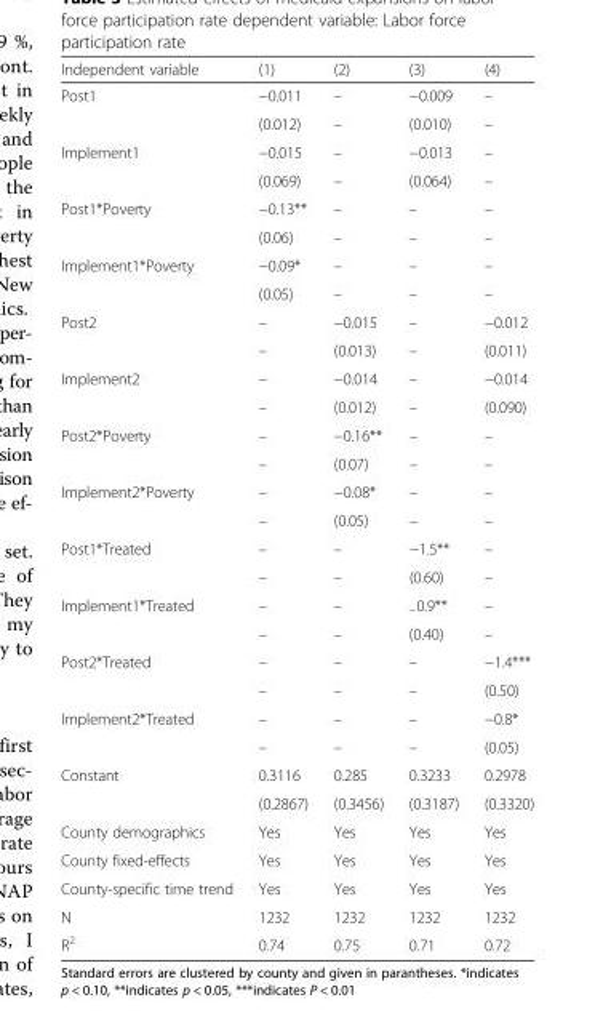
<table><thead><tr><td>Independent variable</td><td>(1)</td><td>(2)</td><td>(3)</td><td>(4)</td></tr></thead><tbody><tr><td rowspan="2">Post1</td><td>−0.011</td><td>–</td><td>−0.009</td><td>–</td></tr><tr><td>(0.012)</td><td>–</td><td>(0.010)</td><td>–</td></tr><tr><td rowspan="2">Implement1</td><td>−0.015</td><td>–</td><td>−0.013</td><td>–</td></tr><tr><td>(0.069)</td><td>–</td><td>(0.064)</td><td>–</td></tr><tr><td rowspan="2">Post1*Poverty</td><td>−0.13**</td><td>–</td><td>–</td><td>–</td></tr><tr><td>(0.06)</td><td>–</td><td>–</td><td>–</td></tr><tr><td rowspan="2">Implement1*Poverty</td><td>−0.09*</td><td>–</td><td>–</td><td>–</td></tr><tr><td>(0.05)</td><td>–</td><td>–</td><td>–</td></tr><tr><td rowspan="2">Post2</td><td>–</td><td>−0.015</td><td>–</td><td>−0.012</td></tr><tr><td>–</td><td>(0.013)</td><td>–</td><td>(0.011)</td></tr><tr><td rowspan="2">Implement2</td><td>–</td><td>−0.014</td><td>–</td><td>−0.014</td></tr><tr><td>–</td><td>(0.012)</td><td>–</td><td>(0.090)</td></tr><tr><td rowspan="2">Post2*Poverty</td><td>–</td><td>−0.16**</td><td>–</td><td>–</td></tr><tr><td>–</td><td>(0.07)</td><td>–</td><td>–</td></tr><tr><td rowspan="2">Implement2*Poverty</td><td>–</td><td>−0.08*</td><td>–</td><td>–</td></tr><tr><td>–</td><td>(0.05)</td><td>–</td><td>–</td></tr><tr><td rowspan="2">Post1*Treated</td><td>–</td><td>–</td><td>−1.5**</td><td>–</td></tr><tr><td>–</td><td>–</td><td>(0.60)</td><td>–</td></tr><tr><td rowspan="2">Implement1*Treated</td><td>–</td><td>–</td><td><sub>−</sub>0.9**</td><td>–</td></tr><tr><td>–</td><td>–</td><td>(0.40)</td><td>–</td></tr><tr><td rowspan="2">Post2*Treated</td><td>–</td><td>–</td><td>–</td><td>−1.4***</td></tr><tr><td>–</td><td>–</td><td>–</td><td>(0.50)</td></tr><tr><td rowspan="2">Implement2*Treated</td><td>–</td><td>–</td><td>–</td><td>−0.8*</td></tr><tr><td>–</td><td>–</td><td>–</td><td>(0.05)</td></tr><tr><td rowspan="2">Constant</td><td>0.3116</td><td>0.285</td><td>0.3233</td><td>0.2978</td></tr><tr><td>(0.2867)</td><td>(0.3456)</td><td>(0.3187)</td><td>(0.3320)</td></tr><tr><td>County demographics</td><td>Yes</td><td>Yes</td><td>Yes</td><td>Yes</td></tr><tr><td>County fixed-effects</td><td>Yes</td><td>Yes</td><td>Yes</td><td>Yes</td></tr><tr><td>County-specific time trend</td><td>Yes</td><td>Yes</td><td>Yes</td><td>Yes</td></tr><tr><td>N</td><td>1232</td><td>1232</td><td>1232</td><td>1232</td></tr><tr><td>R<sup>2</sup></td><td>0.74</td><td>0.75</td><td>0.71</td><td>0.72</td></tr></tbody></table>